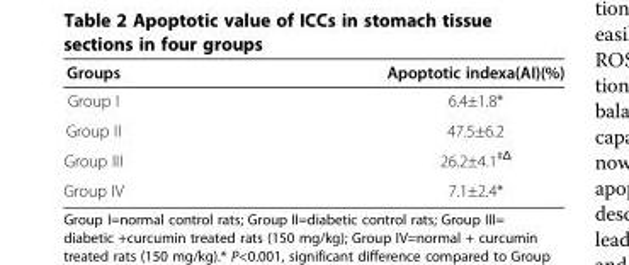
<table><thead><tr><td>Groups</td><td>Apoptotic indexa(AI)(%)</td></tr></thead><tbody><tr><td>Group I</td><td>6.4±1.8*</td></tr><tr><td>Group II</td><td>47.5±6.2</td></tr><tr><td>Group III</td><td>26.2±4.1<sup>#Δ</sup></td></tr><tr><td>Group IV</td><td>7.1±2.4*</td></tr></tbody></table>